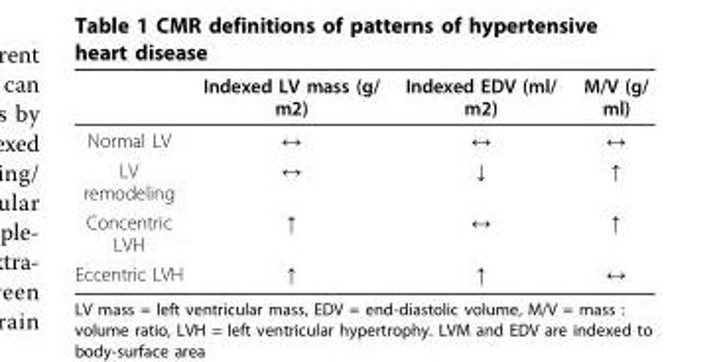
<table><thead><tr><td></td><td>Indexed LV mass (g/ m2)</td><td>Indexed EDV (ml/ m2)</td><td>M/V (g/ ml)</td></tr></thead><tbody><tr><td>Normal LV</td><td>↔</td><td>↔</td><td>↔</td></tr><tr><td>LV remodeling</td><td>↔</td><td>↓</td><td>↑</td></tr><tr><td>Concentric LVH</td><td>↑</td><td>↔</td><td>↑</td></tr><tr><td>Eccentric LVH</td><td>↑</td><td>↑</td><td>↔</td></tr></tbody></table>